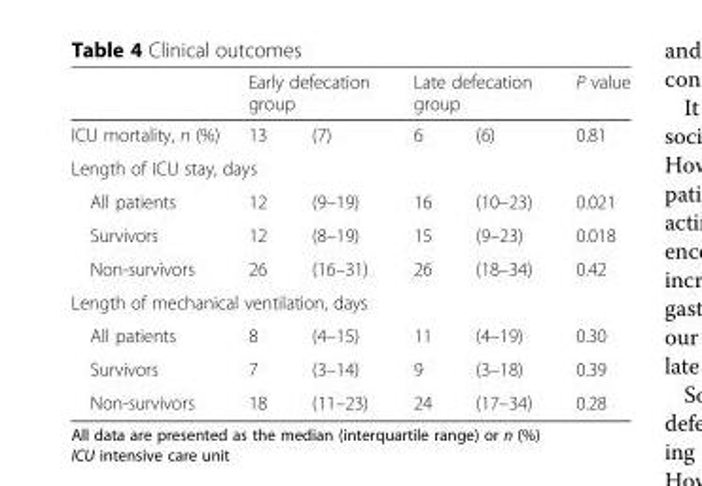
<table><thead><tr><td rowspan="2">ICU mortality, n (%)</td><td colspan="2">Early defecation group</td><td colspan="2">Late defecation group</td><td rowspan="2">P value 0.81</td></tr><tr><td>13</td><td>(7)</td><td>6</td><td>(6)</td></tr></thead><tbody><tr><td colspan="6">Length of ICU stay, days</td></tr><tr><td>All patients</td><td>12</td><td>(9–19)</td><td>16</td><td>(10–23)</td><td>0.021</td></tr><tr><td>Survivors</td><td>12</td><td>(8–19)</td><td>15</td><td>(9–23)</td><td>0.018</td></tr><tr><td>Non-survivors</td><td>26</td><td>(16–31)</td><td>26</td><td>(18–34)</td><td>0.42</td></tr><tr><td colspan="6">Length of mechanical ventilation, days</td></tr><tr><td>All patients</td><td>8</td><td>(4–15)</td><td>11</td><td>(4–19)</td><td>0.30</td></tr><tr><td>Survivors</td><td>7</td><td>(3–14)</td><td>9</td><td>(3–18)</td><td>0.39</td></tr><tr><td>Non-survivors</td><td>18</td><td>(11–23)</td><td>24</td><td>(17–34)</td><td>0.28</td></tr></tbody></table>